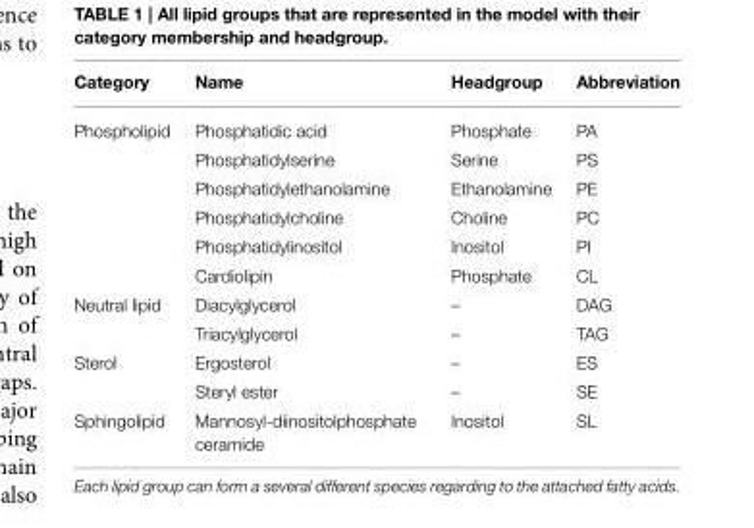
<table><thead><tr><td>Category</td><td>Name</td><td>Headgroup</td><td>Abbreviation</td></tr></thead><tbody><tr><td rowspan="6">Phospholipid</td><td>Phosphatidic acid</td><td>Phosphate</td><td>PA</td></tr><tr><td>Phosphatidylserine</td><td>Serine</td><td>PS</td></tr><tr><td>Phosphatidylethanolamine</td><td>Ethanolamine</td><td>PE</td></tr><tr><td>Phosphatidylcholine</td><td>Choline</td><td>PC</td></tr><tr><td>Phosphatidylinositol</td><td>Inositol</td><td>PI</td></tr><tr><td>Cardiolipin</td><td>Phosphate</td><td>CL</td></tr><tr><td rowspan="2">Neutral lipid</td><td>Diacylglycerol</td><td>–</td><td>DAG</td></tr><tr><td>Triacylglycerol</td><td>–</td><td>TAG</td></tr><tr><td rowspan="2">Sterol</td><td>Ergosterol</td><td>–</td><td>ES</td></tr><tr><td>Steryl ester</td><td>–</td><td>SE</td></tr><tr><td>Sphingolipid</td><td>Mannosyl-diinositolphosphate ceramide</td><td>Inositol</td><td>SL</td></tr></tbody></table>